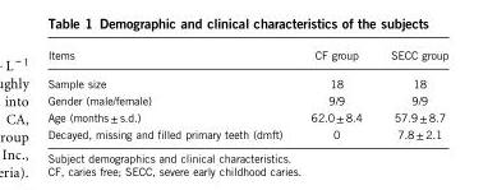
<table><thead><tr><td>Items</td><td>CF group</td><td>SECC group</td></tr></thead><tbody><tr><td>Sample size</td><td>18</td><td>18</td></tr><tr><td>Gender (male/female)</td><td>9/9</td><td>9/9</td></tr><tr><td>Age (months± s.d.)</td><td>62.0 ± 8.4</td><td>57.9 ± 8.7</td></tr><tr><td>Decayed, missing and filled primary teeth (dmft)</td><td>0</td><td>7.8 ± 2.1</td></tr></tbody></table>